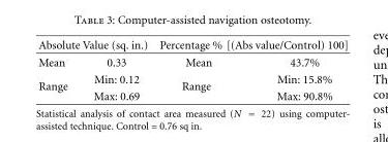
<table><thead><tr><td colspan="2">Absolute Value (sq. in.)</td><td colspan="2">Percentage % [(Abs value/Control) 100]</td></tr><tr><td>Mean</td><td>0.33</td><td>Mean</td><td>43.7%</td></tr></thead><tbody><tr><td rowspan="2">Range</td><td>Min: 0.12</td><td rowspan="2">Range</td><td>Min: 15.8%</td></tr><tr><td>Max: 0.69</td><td>Max: 90.8%</td></tr></tbody></table>